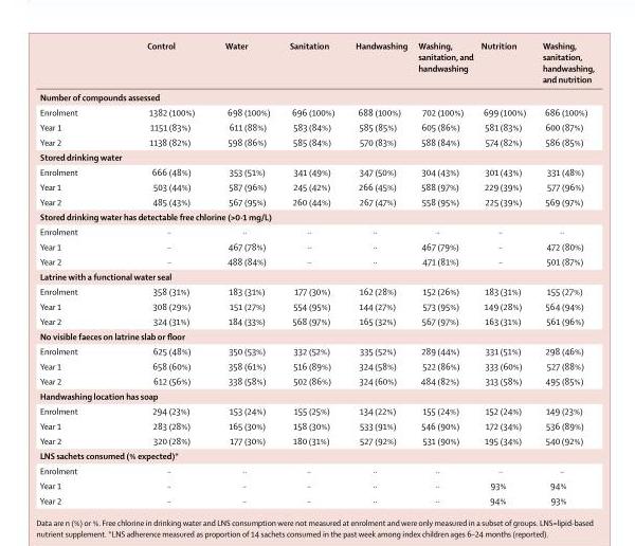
<table><thead><tr><td></td><td>Control</td><td>Water</td><td>Sanitation</td><td>Handwashing</td><td>Washing, sanitation, and handwashing</td><td>Nutrition</td><td>Washing, sanitation, handwashing, and nutrition</td></tr></thead><tbody><tr><td colspan="8">Number of compounds assessed</td></tr><tr><td>Enrolment</td><td>1382 (100%)</td><td>698 (100%)</td><td>696 (100%)</td><td>688 (100%)</td><td>702 (100%)</td><td>699 (100%)</td><td>686 (100%)</td></tr><tr><td>Year 1</td><td>1151 (83%)</td><td>611 (88%)</td><td>583 (84%)</td><td>585 (85%)</td><td>605 (86%)</td><td>581 (83%)</td><td>600 (87%)</td></tr><tr><td>Year 2</td><td>1138 (82%)</td><td>598 (86%)</td><td>585 (84%)</td><td>570 (83%)</td><td>588 (84%)</td><td>574 (82%)</td><td>586 (85%)</td></tr><tr><td colspan="8">Stored drinking water</td></tr><tr><td>Enrolment</td><td>666 (48%)</td><td>353 (51%)</td><td>341 (49%)</td><td>347 (50%)</td><td>304 (43%)</td><td>301 (43%)</td><td>331 (48%)</td></tr><tr><td>Year 1</td><td>503 (44%)</td><td>587 (96%)</td><td>245 (42%)</td><td>266 (45%)</td><td>588 (97%)</td><td>229 (39%)</td><td>577 (96%)</td></tr><tr><td>Year 2</td><td>485 (43%)</td><td>567 (95%)</td><td>260 (44%)</td><td>267 (47%)</td><td>558 (95%)</td><td>225 (39%)</td><td>569 (97%)</td></tr><tr><td colspan="8">Stored drinking water has detectable free chlorine (&gt;0·1 mg/L)</td></tr><tr><td>Enrolment</td><td>··</td><td>··</td><td>··</td><td>··</td><td>··</td><td>··</td><td>··</td></tr><tr><td>Year 1</td><td>··</td><td>467 (78%)</td><td>··</td><td>··</td><td>467 (79%)</td><td>··</td><td>472 (80%)</td></tr><tr><td>Year 2</td><td>··</td><td>488 (84%)</td><td>··</td><td>··</td><td>471 (81%)</td><td>··</td><td>501 (87%)</td></tr><tr><td colspan="8">Latrine with a functional water seal</td></tr><tr><td>Enrolment</td><td>358 (31%)</td><td>183 (31%)</td><td>177 (30%)</td><td>162 (28%)</td><td>152 (26%)</td><td>183 (31%)</td><td>155 (27%)</td></tr><tr><td>Year 1</td><td>308 (29%)</td><td>151 (27%)</td><td>554 (95%)</td><td>144 (27%)</td><td>573 (95%)</td><td>149 (28%)</td><td>564 (94%)</td></tr><tr><td>Year 2</td><td>324 (31%)</td><td>184 (33%)</td><td>568 (97%)</td><td>165 (32%)</td><td>567 (97%)</td><td>163 (31%)</td><td>561 (96%)</td></tr><tr><td colspan="8">No visible faeces on latrine slab or floor</td></tr><tr><td>Enrolment</td><td>625 (48%)</td><td>350 (53%)</td><td>332 (52%)</td><td>335 (52%)</td><td>289 (44%)</td><td>331 (51%)</td><td>298 (46%)</td></tr><tr><td>Year 1</td><td>658 (60%)</td><td>358 (61%)</td><td>516 (89%)</td><td>324 (58%)</td><td>522 (86%)</td><td>333 (60%)</td><td>527 (88%)</td></tr><tr><td>Year 2</td><td>612 (56%)</td><td>338 (58%)</td><td>502 (86%)</td><td>324 (60%)</td><td>484 (82%)</td><td>313 (58%)</td><td>495 (85%)</td></tr><tr><td colspan="8">Handwashing location has soap</td></tr><tr><td>Enrolment</td><td>294 (23%)</td><td>153 (24%)</td><td>155 (25%)</td><td>134 (22%)</td><td>155 (24%)</td><td>152 (24%)</td><td>149 (23%)</td></tr><tr><td>Year 1</td><td>283 (28%)</td><td>165 (30%)</td><td>158 (30%)</td><td>533 (91%)</td><td>546 (90%)</td><td>172 (34%)</td><td>536 (89%)</td></tr><tr><td>Year 2</td><td>320 (28%)</td><td>177 (30%)</td><td>180 (31%)</td><td>527 (92%)</td><td>531 (90%)</td><td>195 (34%)</td><td>540 (92%)</td></tr><tr><td colspan="8">LNS sachets consumed (% expected)*</td></tr><tr><td>Enrolment</td><td>··</td><td>··</td><td>··</td><td>··</td><td>··</td><td>··</td><td>··</td></tr><tr><td>Year 1</td><td>··</td><td>··</td><td>··</td><td>··</td><td>··</td><td>93%</td><td>94%</td></tr><tr><td>Year 2</td><td>··</td><td>··</td><td>··</td><td>··</td><td>··</td><td>94%</td><td>93%</td></tr></tbody></table>